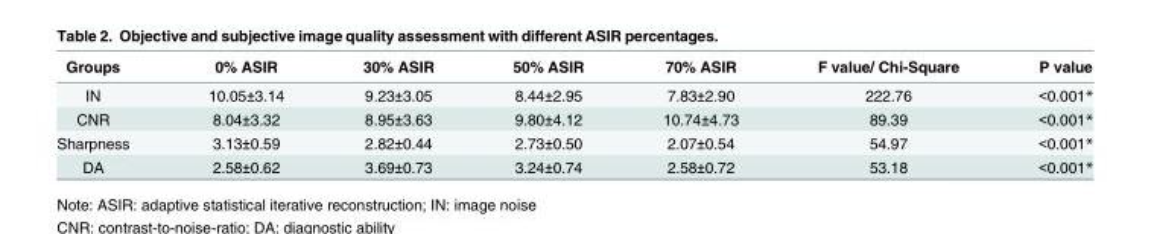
<table><thead><tr><td>Groups</td><td>0% ASIR</td><td>30% ASIR</td><td>50% ASIR</td><td>70% ASIR</td><td>F value/ Chi-Square</td><td>P value</td></tr></thead><tbody><tr><td>IN</td><td>10.05±3.14</td><td>9.23±3.05</td><td>8.44±2.95</td><td>7.83±2.90</td><td>222.76</td><td>&lt;0.001*</td></tr><tr><td>CNR</td><td>8.04±3.32</td><td>8.95±3.63</td><td>9.80±4.12</td><td>10.74±4.73</td><td>89.39</td><td>&lt;0.001*</td></tr><tr><td>Sharpness</td><td>3.13±0.59</td><td>2.82±0.44</td><td>2.73±0.50</td><td>2.07±0.54</td><td>54.97</td><td>&lt;0.001*</td></tr><tr><td>DA</td><td>2.58±0.62</td><td>3.69±0.73</td><td>3.24±0.74</td><td>2.58±0.72</td><td>53.18</td><td>&lt;0.001*</td></tr></tbody></table>